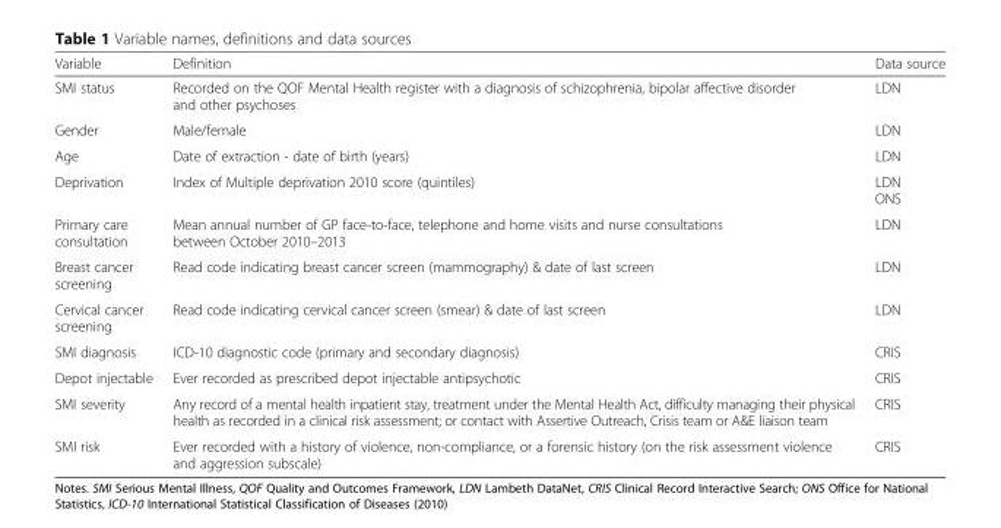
<table><thead><tr><td>Variable</td><td>Definition</td><td>Data source</td></tr></thead><tbody><tr><td>SMI status</td><td>Recorded on the QOF Mental Health register with a diagnosis of schizophrenia, bipolar affective disorder and other psychoses</td><td>LDN</td></tr><tr><td>Gender</td><td>Male/female</td><td>LDN</td></tr><tr><td>Age</td><td>Date of extraction - date of birth (years)</td><td>LDN</td></tr><tr><td>Deprivation</td><td>Index of Multiple deprivation 2010 score (quintiles)</td><td>LDN ONS</td></tr><tr><td>Primary care consultation</td><td>Mean annual number of GP face-to-face, telephone and home visits and nurse consultations between October 2010–2013</td><td>LDN</td></tr><tr><td>Breast cancer screening</td><td>Read code indicating breast cancer screen (mammography) &amp; date of last screen</td><td>LDN</td></tr><tr><td>Cervical cancer screening</td><td>Read code indicating cervical cancer screen (smear) &amp; date of last screen</td><td>LDN</td></tr><tr><td>SMI diagnosis</td><td>ICD-10 diagnostic code (primary and secondary diagnosis)</td><td>CRIS</td></tr><tr><td>Depot injectable</td><td>Ever recorded as prescribed depot injectable antipsychotic</td><td>CRIS</td></tr><tr><td>SMI severity</td><td>Any record of a mental health inpatient stay, treatment under the Mental Health Act, difficulty managing their physical health as recorded in a clinical risk assessment; or contact with Assertive Outreach, Crisis team or A&amp;E liaison team</td><td>CRIS</td></tr><tr><td>SMI risk</td><td>Ever recorded with a history of violence, non-compliance, or a forensic history (on the risk assessment violence and aggression subscale)</td><td>CRIS</td></tr></tbody></table>